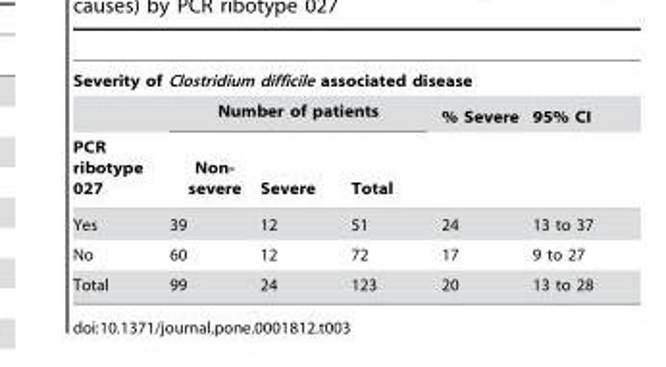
<table><thead><tr><td colspan="6">Severity of Clostridium difficile associated disease</td></tr><tr><td rowspan="2">PCR ribotype 027</td><td colspan="3">Number of patients</td><td rowspan="2">% Severe</td><td rowspan="2">95% CI</td></tr><tr><td>Non- severe</td><td>Severe</td><td>Total</td></tr></thead><tbody><tr><td>Yes</td><td>39</td><td>12</td><td>51</td><td>24</td><td>13 to 37</td></tr><tr><td>No</td><td>60</td><td>12</td><td>72</td><td>17</td><td>9 to 27</td></tr><tr><td>Total</td><td>99</td><td>24</td><td>123</td><td>20</td><td>13 to 28</td></tr></tbody></table>